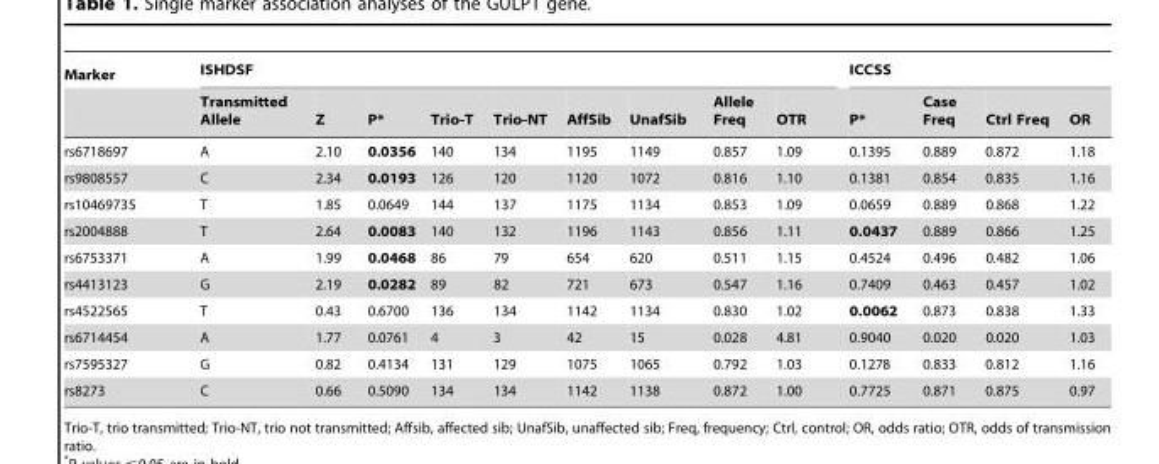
<table><thead><tr><td rowspan="2">Marker</td><td colspan="9">ISHDSF</td><td colspan="4">ICCSS</td></tr><tr><td>Transmitted Allele</td><td>Z</td><td>P*</td><td>Trio-T</td><td>Trio-NT</td><td>AffSib</td><td>UnafSib</td><td>Allele Freq</td><td>OTR</td><td>P*</td><td>Case Freq</td><td>Ctrl Freq</td><td>OR</td></tr></thead><tbody><tr><td>rs6718697</td><td>A</td><td>2.10</td><td>0.0356</td><td>140</td><td>134</td><td>1195</td><td>1149</td><td>0.857</td><td>1.09</td><td>0.1395</td><td>0.889</td><td>0.872</td><td>1.18</td></tr><tr><td>rs9808557</td><td>C</td><td>2.34</td><td>0.0193</td><td>126</td><td>120</td><td>1120</td><td>1072</td><td>0.816</td><td>1.10</td><td>0.1381</td><td>0.854</td><td>0.835</td><td>1.16</td></tr><tr><td>rs10469735</td><td>T</td><td>1.85</td><td>0.0649</td><td>144</td><td>137</td><td>1175</td><td>1134</td><td>0.853</td><td>1.09</td><td>0.0659</td><td>0.889</td><td>0.868</td><td>1.22</td></tr><tr><td>rs2004888</td><td>T</td><td>2.64</td><td>0.0083</td><td>140</td><td>132</td><td>1196</td><td>1143</td><td>0.856</td><td>1.11</td><td>0.0437</td><td>0.889</td><td>0.866</td><td>1.25</td></tr><tr><td>rs6753371</td><td>A</td><td>1.99</td><td>0.0468</td><td>86</td><td>79</td><td>654</td><td>620</td><td>0.511</td><td>1.15</td><td>0.4524</td><td>0.496</td><td>0.482</td><td>1.06</td></tr><tr><td>rs4413123</td><td>G</td><td>2.19</td><td>0.0282</td><td>89</td><td>82</td><td>721</td><td>673</td><td>0.547</td><td>1.16</td><td>0.7409</td><td>0.463</td><td>0.457</td><td>1.02</td></tr><tr><td>rs4522565</td><td>T</td><td>0.43</td><td>0.6700</td><td>136</td><td>134</td><td>1142</td><td>1134</td><td>0.830</td><td>1.02</td><td>0.0062</td><td>0.873</td><td>0.838</td><td>1.33</td></tr><tr><td>rs6714454</td><td>A</td><td>1.77</td><td>0.0761</td><td>4</td><td>3</td><td>42</td><td>15</td><td>0.028</td><td>4.81</td><td>0.9040</td><td>0.020</td><td>0.020</td><td>1.03</td></tr><tr><td>rs7595327</td><td>G</td><td>0.82</td><td>0.4134</td><td>131</td><td>129</td><td>1075</td><td>1065</td><td>0.792</td><td>1.03</td><td>0.1278</td><td>0.833</td><td>0.812</td><td>1.16</td></tr><tr><td>rs8273</td><td>C</td><td>0.66</td><td>0.5090</td><td>134</td><td>134</td><td>1142</td><td>1138</td><td>0.872</td><td>1.00</td><td>0.7725</td><td>0.871</td><td>0.875</td><td>0.97</td></tr></tbody></table>